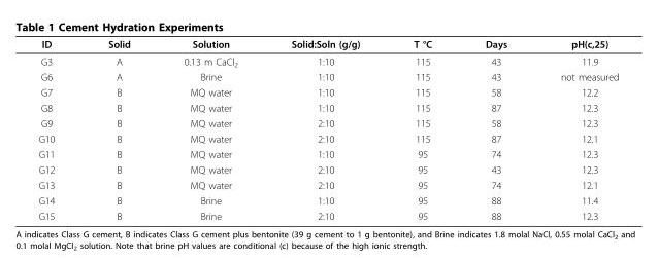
<table><thead><tr><td>ID</td><td>Solid</td><td>Solution</td><td>Solid:Soln (g/g)</td><td>T °C</td><td>Days</td><td>pH(c,25)</td></tr></thead><tbody><tr><td>G3</td><td>A</td><td>0.13 m CaCl<sub>2</sub></td><td>1:10</td><td>115</td><td>43</td><td>11.9</td></tr><tr><td>G6</td><td>A</td><td>Brine</td><td>1:10</td><td>115</td><td>43</td><td>not measured</td></tr><tr><td>G7</td><td>B</td><td>MQ water</td><td>1:10</td><td>115</td><td>58</td><td>12.2</td></tr><tr><td>G8</td><td>B</td><td>MQ water</td><td>1:10</td><td>115</td><td>87</td><td>12.3</td></tr><tr><td>G9</td><td>B</td><td>MQ water</td><td>2:10</td><td>115</td><td>58</td><td>12.3</td></tr><tr><td>G10</td><td>B</td><td>MQ water</td><td>2:10</td><td>115</td><td>87</td><td>12.1</td></tr><tr><td>G11</td><td>B</td><td>MQ water</td><td>1:10</td><td>95</td><td>74</td><td>12.3</td></tr><tr><td>G12</td><td>B</td><td>MQ water</td><td>2:10</td><td>95</td><td>43</td><td>12.3</td></tr><tr><td>G13</td><td>B</td><td>MQ water</td><td>2:10</td><td>95</td><td>74</td><td>12.1</td></tr><tr><td>G14</td><td>B</td><td>Brine</td><td>1:10</td><td>95</td><td>88</td><td>11.4</td></tr><tr><td>G15</td><td>B</td><td>Brine</td><td>2:10</td><td>95</td><td>88</td><td>12.3</td></tr></tbody></table>